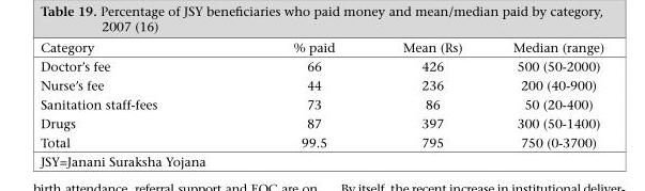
<table><thead><tr><td>Category</td><td>% paid</td><td>Mean (Rs)</td><td>Median (range)</td></tr></thead><tbody><tr><td>Doctor’s fee</td><td>66</td><td>426</td><td>500 (50-2000)</td></tr><tr><td>Nurse’s fee</td><td>44</td><td>236</td><td>200 (40-900)</td></tr><tr><td>Sanitation staff-fees</td><td>73</td><td>86</td><td>50 (20-400)</td></tr><tr><td>Drugs</td><td>87</td><td>397</td><td>300 (50-1400)</td></tr><tr><td>Total</td><td>99.5</td><td>795</td><td>750 (0-3700)</td></tr></tbody></table>